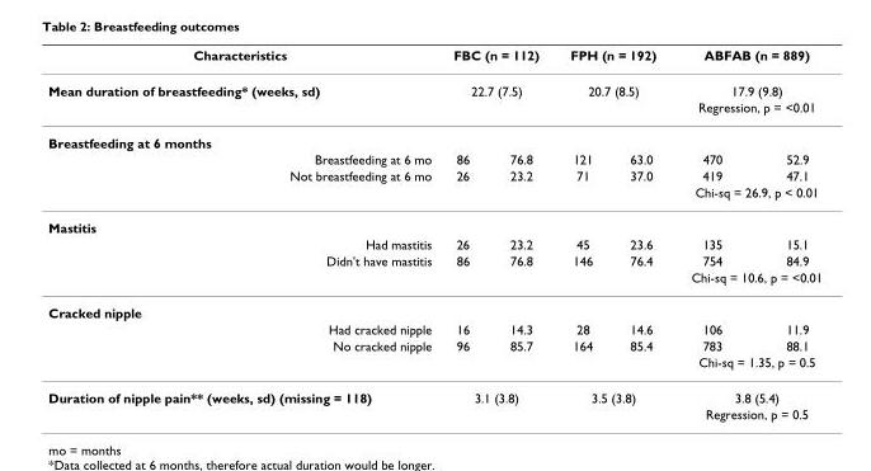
<table><thead><tr><td rowspan="4">Characteristics Mean duration of breastfeeding* (weeks, sd) Breastfeeding at 6 months</td><td rowspan="2" colspan="2">FBC (n = 112) 22.7 (7.5)</td><td rowspan="2" colspan="2">FPH (n = 192) 20.7 (8.5)</td><td rowspan="3" colspan="2">ABFAB (n = 889) 17.9 (9.8) Regression, p = &lt;0.01</td></tr><tr></tr><tr><td rowspan="2"></td><td rowspan="2"></td><td rowspan="2"></td><td rowspan="2"></td></tr><tr><td></td><td></td></tr></thead><tbody><tr><td>Breastfeeding at 6 mo</td><td>86</td><td>76.8</td><td>121</td><td>63.0</td><td>470</td><td>52.9</td></tr><tr><td rowspan="2">Not breastfeeding at 6 mo</td><td>26</td><td>23.2</td><td>71</td><td>37.0</td><td>419</td><td>47.1</td></tr><tr><td></td><td></td><td></td><td></td><td colspan="2">Chi-sq = 26.9, p &lt; 0.01</td></tr><tr><td colspan="7">Mastitis</td></tr><tr><td>Had mastitis</td><td>26</td><td>23.2</td><td>45</td><td>23.6</td><td>135</td><td>15.1</td></tr><tr><td rowspan="2">Didn&#x27;t have mastitis</td><td>86</td><td>76.8</td><td>146</td><td>76.4</td><td>754</td><td>84.9</td></tr><tr><td></td><td></td><td></td><td></td><td colspan="2">Chi-sq = 10.6, p = &lt;0.01</td></tr><tr><td colspan="7">Cracked nipple</td></tr><tr><td>Had cracked nipple</td><td>16</td><td>14.3</td><td>28</td><td>14.6</td><td>106</td><td>11.9</td></tr><tr><td rowspan="2">No cracked nipple</td><td>96</td><td>85.7</td><td>164</td><td>85.4</td><td>783</td><td>88.1</td></tr><tr><td></td><td></td><td></td><td></td><td colspan="2">Chi-sq = 1.35, p = 0.5</td></tr><tr><td rowspan="2">Duration of nipple pain** (weeks, sd) (missing = 118)</td><td colspan="2">3.1 (3.8)</td><td colspan="2">3.5 (3.8)</td><td colspan="2">3.8 (5.4)</td></tr><tr><td></td><td></td><td></td><td></td><td colspan="2">Regression, p = 0.5</td></tr></tbody></table>